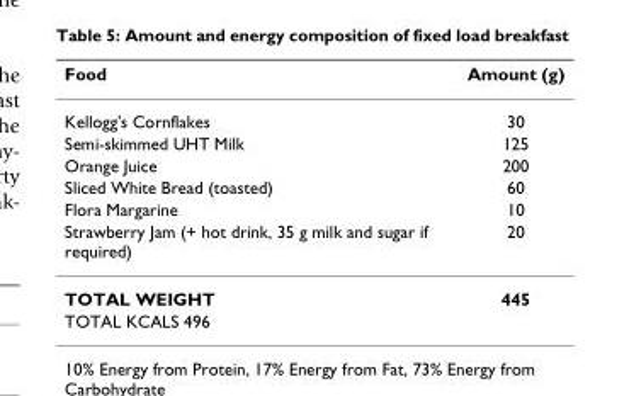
<table><thead><tr><td>Food</td><td>Amount (g)</td></tr></thead><tbody><tr><td>Kellogg&#x27;s Cornflakes</td><td>30</td></tr><tr><td>Semi-skimmed UHT Milk</td><td>125</td></tr><tr><td>Orange Juice</td><td>200</td></tr><tr><td>Sliced White Bread (toasted)</td><td>60</td></tr><tr><td>Flora Margarine</td><td>10</td></tr><tr><td>Strawberry Jam (+ hot drink, 35 g milk and sugar if required)</td><td>20</td></tr><tr><td>TOTAL WEIGHT</td><td>445</td></tr><tr><td>TOTAL KCALS 496</td><td></td></tr></tbody></table>